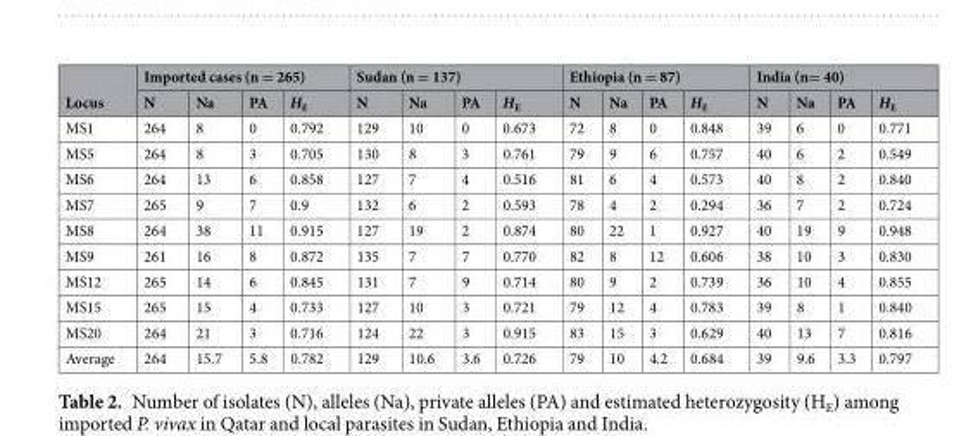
<table><thead><tr><td rowspan="2">Locus</td><td colspan="4">Imported cases (n = 265)</td><td colspan="4">Sudan (n = 137)</td><td colspan="4">Ethiopia (n = 87)</td><td colspan="4">India (n= 40)</td></tr><tr><td>N</td><td>Na</td><td>PA</td><td>H<sub>E</sub></td><td>N</td><td>Na</td><td>PA</td><td>H<sub>E</sub></td><td>N</td><td>Na</td><td>PA</td><td>H<sub>E</sub></td><td>N</td><td>Na</td><td>PA</td><td>H<sub>E</sub></td></tr></thead><tbody><tr><td>MS1</td><td>264</td><td>8</td><td>0</td><td>0.792</td><td>129</td><td>10</td><td>0</td><td>0.673</td><td>72</td><td>8</td><td>0</td><td>0.848</td><td>39</td><td>6</td><td>0</td><td>0.771</td></tr><tr><td>MS5</td><td>264</td><td>8</td><td>3</td><td>0.705</td><td>130</td><td>8</td><td>3</td><td>0.761</td><td>79</td><td>9</td><td>6</td><td>0.757</td><td>40</td><td>6</td><td>2</td><td>0.549</td></tr><tr><td>MS6</td><td>264</td><td>13</td><td>6</td><td>0.858</td><td>127</td><td>7</td><td>4</td><td>0.516</td><td>81</td><td>6</td><td>4</td><td>0.573</td><td>40</td><td>8</td><td>2</td><td>0.840</td></tr><tr><td>MS7</td><td>265</td><td>9</td><td>7</td><td>0.9</td><td>132</td><td>6</td><td>2</td><td>0.593</td><td>78</td><td>4</td><td>2</td><td>0.294</td><td>36</td><td>7</td><td>2</td><td>0.724</td></tr><tr><td>MS8</td><td>264</td><td>38</td><td>11</td><td>0.915</td><td>127</td><td>19</td><td>2</td><td>0.874</td><td>80</td><td>22</td><td>1</td><td>0.927</td><td>40</td><td>19</td><td>9</td><td>0.948</td></tr><tr><td>MS9</td><td>261</td><td>16</td><td>8</td><td>0.872</td><td>135</td><td>7</td><td>7</td><td>0.770</td><td>82</td><td>8</td><td>12</td><td>0.606</td><td>38</td><td>10</td><td>3</td><td>0.830</td></tr><tr><td>MS12</td><td>265</td><td>14</td><td>6</td><td>0.845</td><td>131</td><td>7</td><td>9</td><td>0.714</td><td>80</td><td>9</td><td>2</td><td>0.739</td><td>36</td><td>10</td><td>4</td><td>0.855</td></tr><tr><td>MS15</td><td>265</td><td>15</td><td>4</td><td>0.733</td><td>127</td><td>10</td><td>3</td><td>0.721</td><td>79</td><td>12</td><td>4</td><td>0.783</td><td>39</td><td>8</td><td>1</td><td>0.840</td></tr><tr><td>MS20</td><td>264</td><td>21</td><td>3</td><td>0.716</td><td>124</td><td>22</td><td>3</td><td>0.915</td><td>83</td><td>15</td><td>3</td><td>0.629</td><td>40</td><td>13</td><td>7</td><td>0.816</td></tr><tr><td>Average</td><td>264</td><td>15.7</td><td>5.8</td><td>0.782</td><td>129</td><td>10.6</td><td>3.6</td><td>0.726</td><td>79</td><td>10</td><td>4.2</td><td>0.684</td><td>39</td><td>9.6</td><td>3.3</td><td>0.797</td></tr></tbody></table>